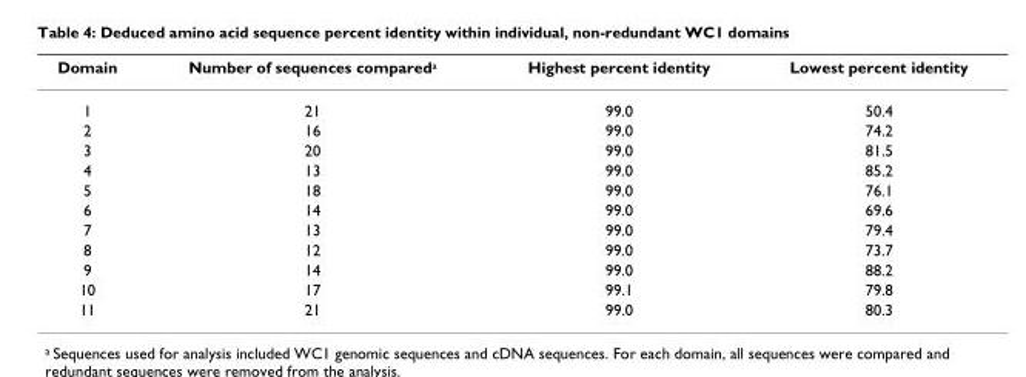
<table><thead><tr><td>Domain</td><td>Number of sequences compared<sup>a</sup></td><td>Highest percent identity</td><td>Lowest percent identity</td></tr></thead><tbody><tr><td>1</td><td>21</td><td>99.0</td><td>50.4</td></tr><tr><td>2</td><td>16</td><td>99.0</td><td>74.2</td></tr><tr><td>3</td><td>20</td><td>99.0</td><td>81.5</td></tr><tr><td>4</td><td>13</td><td>99.0</td><td>85.2</td></tr><tr><td>5</td><td>18</td><td>99.0</td><td>76.1</td></tr><tr><td>6</td><td>14</td><td>99.0</td><td>69.6</td></tr><tr><td>7</td><td>13</td><td>99.0</td><td>79.4</td></tr><tr><td>8</td><td>12</td><td>99.0</td><td>73.7</td></tr><tr><td>9</td><td>14</td><td>99.0</td><td>88.2</td></tr><tr><td>10</td><td>17</td><td>99.1</td><td>79.8</td></tr><tr><td>11</td><td>21</td><td>99.0</td><td>80.3</td></tr></tbody></table>